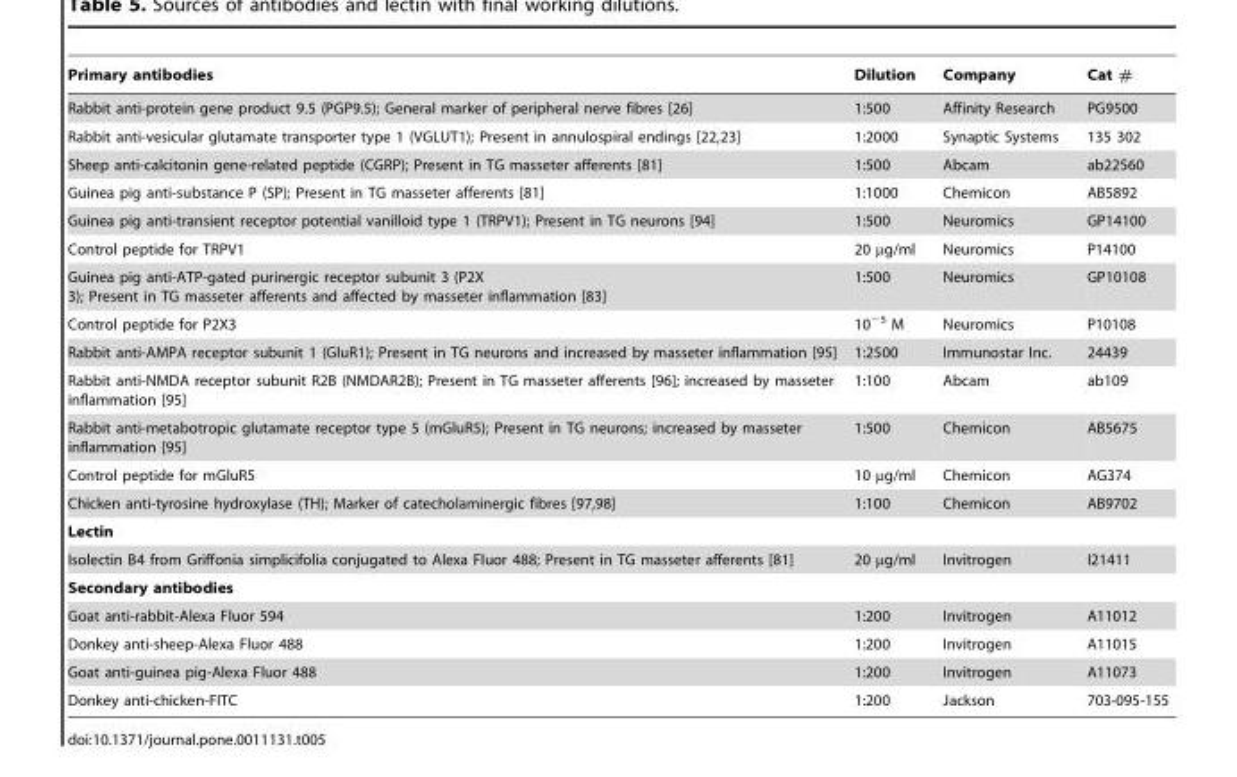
<table><thead><tr><td>Primary antibodies</td><td>Dilution</td><td>Company</td><td>Cat #</td></tr></thead><tbody><tr><td>Rabbit anti-protein gene product 9.5 (PGP9.5); General marker of peripheral nerve fibres [26]</td><td>1:500</td><td>Affinity Research</td><td>PG9500</td></tr><tr><td>Rabbit anti-vesicular glutamate transporter type 1 (VGLUT1); Present in annulospiral endings [22,23]</td><td>1:2000</td><td>Synaptic Systems</td><td>135 302</td></tr><tr><td>Sheep anti-calcitonin gene-related peptide (CGRP); Present in TG masseter afferents [81]</td><td>1:500</td><td>Abcam</td><td>ab22560</td></tr><tr><td>Guinea pig anti-substance P (SP); Present in TG masseter afferents [81]</td><td>1:1000</td><td>Chemicon</td><td>AB5892</td></tr><tr><td>Guinea pig anti-transient receptor potential vanilloid type 1 (TRPV1); Present in TG neurons [94]</td><td>1:500</td><td>Neuromics</td><td>GP14100</td></tr><tr><td>Control peptide for TRPV1</td><td>20 µg/ml</td><td>Neuromics</td><td>P14100</td></tr><tr><td>Guinea pig anti-ATP-gated purinergic receptor subunit 3 (P2X 3); Present in TG masseter afferents and affected by masseter inflammation [83]</td><td>1:500</td><td>Neuromics</td><td>GP10108</td></tr><tr><td>Control peptide for P2X3</td><td>10<sup>−5</sup> M</td><td>Neuromics</td><td>P10108</td></tr><tr><td>Rabbit anti-AMPA receptor subunit 1 (GluR1); Present in TG neurons and increased by masseter inflammation [95]</td><td>1:2500</td><td>Immunostar Inc.</td><td>24439</td></tr><tr><td>Rabbit anti-NMDA receptor subunit R2B (NMDAR2B); Present in TG masseter afferents [96]; increased by masseter inflammation [95]</td><td>1:100</td><td>Abcam</td><td>ab109</td></tr><tr><td>Rabbit anti-metabotropic glutamate receptor type 5 (mGluR5); Present in TG neurons; increased by masseter inflammation [95]</td><td>1:500</td><td>Chemicon</td><td>AB5675</td></tr><tr><td>Control peptide for mGluR5</td><td>10 µg/ml</td><td>Chemicon</td><td>AG374</td></tr><tr><td>Chicken anti-tyrosine hydroxylase (TH); Marker of catecholaminergic fibres [97,98]</td><td>1:100</td><td>Chemicon</td><td>AB9702</td></tr><tr><td colspan="4">Lectin</td></tr><tr><td>Isolectin B4 from Griffonia simplicifolia conjugated to Alexa Fluor 488; Present in TG masseter afferents [81]</td><td>20 µg/ml</td><td>Invitrogen</td><td>I21411</td></tr><tr><td colspan="4">Secondary antibodies</td></tr><tr><td>Goat anti-rabbit-Alexa Fluor 594</td><td>1:200</td><td>Invitrogen</td><td>A11012</td></tr><tr><td>Donkey anti-sheep-Alexa Fluor 488</td><td>1:200</td><td>Invitrogen</td><td>A11015</td></tr><tr><td>Goat anti-guinea pig-Alexa Fluor 488</td><td>1:200</td><td>Invitrogen</td><td>A11073</td></tr><tr><td>Donkey anti-chicken-FITC</td><td>1:200</td><td>Jackson</td><td>703-095-155</td></tr></tbody></table>